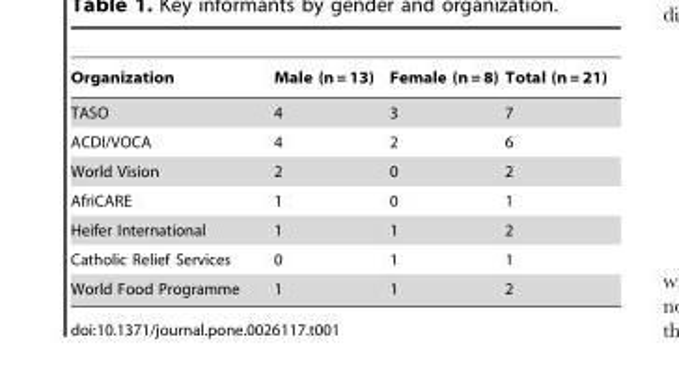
<table><thead><tr><td>Organization</td><td>Male (n = 13)</td><td>Female (n = 8)</td><td>Total (n = 21)</td></tr></thead><tbody><tr><td>TASO</td><td>4</td><td>3</td><td>7</td></tr><tr><td>ACDI/VOCA</td><td>4</td><td>2</td><td>6</td></tr><tr><td>World Vision</td><td>2</td><td>0</td><td>2</td></tr><tr><td>AfriCARE</td><td>1</td><td>0</td><td>1</td></tr><tr><td>Heifer International</td><td>1</td><td>1</td><td>2</td></tr><tr><td>Catholic Relief Services</td><td>0</td><td>1</td><td>1</td></tr><tr><td>World Food Programme</td><td>1</td><td>1</td><td>2</td></tr></tbody></table>